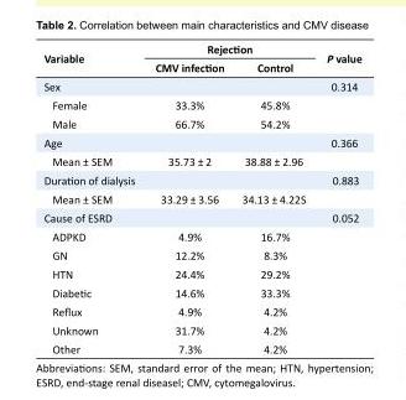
<table><tbody><tr><td rowspan="2">Variable</td><td colspan="2">Rejection</td><td rowspan="2">P value</td></tr><tr><td>CMV infection</td><td>Control</td></tr><tr><td>Sex</td><td></td><td></td><td>0.314</td></tr><tr><td>Female</td><td>33.3%</td><td>45.8%</td><td></td></tr><tr><td>Male</td><td>66.7%</td><td>54.2%</td><td></td></tr><tr><td>Age</td><td></td><td></td><td>0.366</td></tr><tr><td>Mean ± SEM</td><td>35.73 ± 2</td><td>38.88 ± 2.96</td><td></td></tr><tr><td>Duration of dialysis</td><td></td><td></td><td>0.883</td></tr><tr><td>Mean ± SEM</td><td>33.29 ± 3.56</td><td>34.13 ± 4.22S</td><td></td></tr><tr><td>Cause of ESRD</td><td></td><td></td><td>0.052</td></tr><tr><td>ADPKD</td><td>4.9%</td><td>16.7%</td><td></td></tr><tr><td>GN</td><td>12.2%</td><td>8.3%</td><td></td></tr><tr><td>HTN</td><td>24.4%</td><td>29.2%</td><td></td></tr><tr><td>Diabetic</td><td>14.6%</td><td>33.3%</td><td></td></tr><tr><td>Reflux</td><td>4.9%</td><td>4.2%</td><td></td></tr><tr><td>Unknown</td><td>31.7%</td><td>4.2%</td><td></td></tr><tr><td>Other</td><td>7.3%</td><td>4.2%</td><td></td></tr></tbody></table>